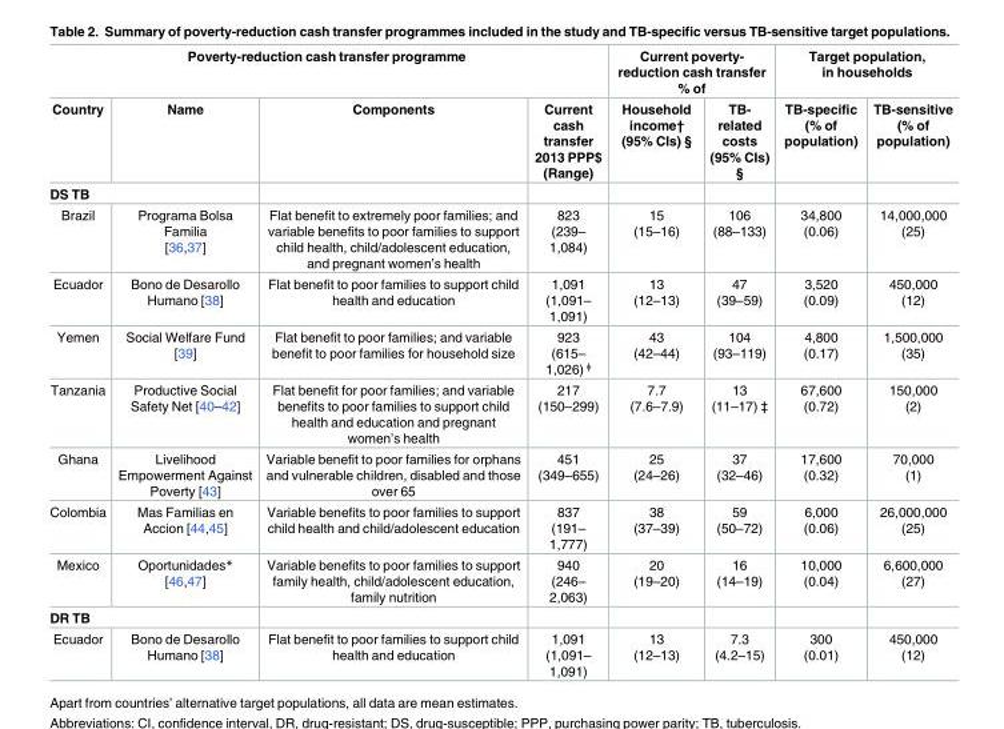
<table><thead><tr><td colspan="4">Poverty-reduction cash transfer programme</td><td colspan="2">Current poverty- reduction cash transfer % of</td><td colspan="2">Target population, in households</td></tr><tr><td>Country</td><td>Name</td><td>Components</td><td>Current cash transfer 2013 PPP$ (Range)</td><td>Household income† (95% CIs) §</td><td>TB- related costs (95% CIs) §</td><td>TB-specific (% of population)</td><td>TB-sensitive (% of population)</td></tr></thead><tbody><tr><td colspan="8">DS TB</td></tr><tr><td>Brazil</td><td>Programa Bolsa Familia [36,37]</td><td>Flat benefit to extremely poor families; and variable benefits to poor families to support child health, child/adolescent education, and pregnant women’s health</td><td>823 (239– 1,084)</td><td>15 (15–16)</td><td>106 (88–133)</td><td>34,800 (0.06)</td><td>14,000,000 (25)</td></tr><tr><td>Ecuador</td><td>Bono de Desarollo Humano [38]</td><td>Flat benefit to poor families to support child health and education</td><td>1,091 (1,091– 1,091)</td><td>13 (12–13)</td><td>47 (39–59)</td><td>3,520 (0.09)</td><td>450,000 (12)</td></tr><tr><td>Yemen</td><td>Social Welfare Fund [39]</td><td>Flat benefit to poor families; and variable benefit to poor families for household size</td><td>923 (615– 1,026) ᶲ</td><td>43 (42–44)</td><td>104 (93–119)</td><td>4,800 (0.17)</td><td>1,500,000 (35)</td></tr><tr><td>Tanzania</td><td>Productive Social Safety Net [40–42]</td><td>Flat benefit for poor families; and variable benefits to poor families to support child health and education and pregnant women’s health</td><td>217 (150–299)</td><td>7.7 (7.6–7.9)</td><td>13 (11–17) ‡</td><td>67,600 (0.72)</td><td>150,000 (2)</td></tr><tr><td>Ghana</td><td>Livelihood Empowerment Against Poverty [43]</td><td>Variable benefit to poor families for orphans and vulnerable children, disabled and those over 65</td><td>451 (349–655)</td><td>25 (24–26)</td><td>37 (32–46)</td><td>17,600 (0.32)</td><td>70,000 (1)</td></tr><tr><td>Colombia</td><td>Mas Familias en Accion [44,45]</td><td>Variable benefits to poor families to support child health and child/adolescent education</td><td>837 (191– 1,777)</td><td>38 (37–39)</td><td>59 (50–72)</td><td>6,000 (0.06)</td><td>26,000,000 (25)</td></tr><tr><td>Mexico</td><td>Oportunidades* [46,47]</td><td>Variable benefits to poor families to support family health, child/adolescent education, family nutrition</td><td>940 (246– 2,063)</td><td>20 (19–20)</td><td>16 (14–19)</td><td>10,000 (0.04)</td><td>6,600,000 (27)</td></tr><tr><td colspan="8">DR TB</td></tr><tr><td>Ecuador</td><td>Bono de Desarollo Humano [38]</td><td>Flat benefit to poor families to support child health and education</td><td>1,091 (1,091– 1,091)</td><td>13 (12–13)</td><td>7.3 (4.2–15)</td><td>300 (0.01)</td><td>450,000 (12)</td></tr></tbody></table>